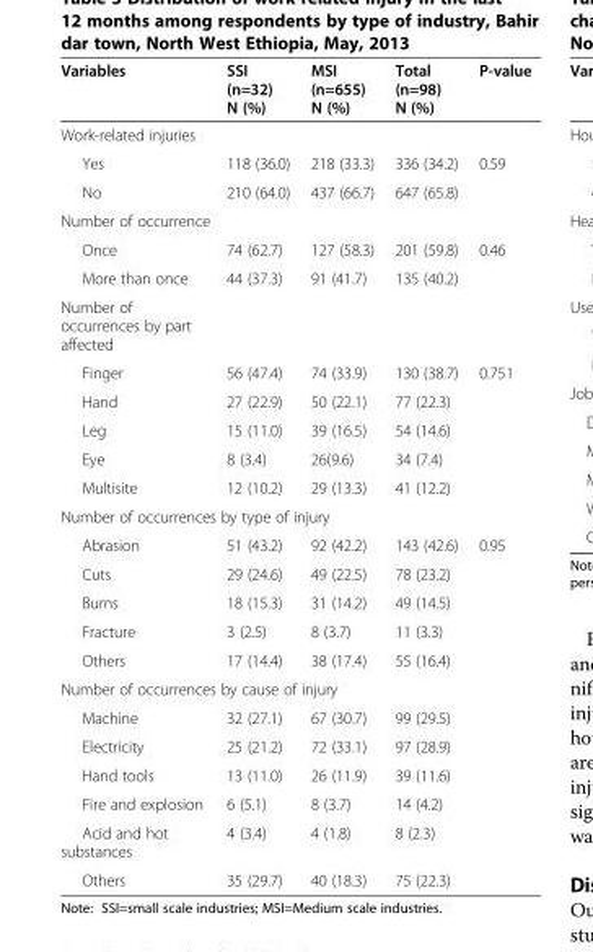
<table><thead><tr><td>Variables</td><td>SSI (n=32) N (%)</td><td>MSI (n=655) N (%)</td><td>Total (n=98) N (%)</td><td>P-value</td></tr></thead><tbody><tr><td colspan="5">Work-related injuries</td></tr><tr><td>Yes</td><td>118 (36.0)</td><td>218 (33.3)</td><td>336 (34.2)</td><td>0.59</td></tr><tr><td>No</td><td>210 (64.0)</td><td>437 (66.7)</td><td>647 (65.8)</td><td></td></tr><tr><td colspan="5">Number of occurrence</td></tr><tr><td>Once</td><td>74 (62.7)</td><td>127 (58.3)</td><td>201 (59.8)</td><td>0.46</td></tr><tr><td>More than once</td><td>44 (37.3)</td><td>91 (41.7)</td><td>135 (40.2)</td><td></td></tr><tr><td colspan="5">Number of occurrences by part affected</td></tr><tr><td>Finger</td><td>56 (47.4)</td><td>74 (33.9)</td><td>130 (38.7)</td><td>0.751</td></tr><tr><td>Hand</td><td>27 (22.9)</td><td>50 (22.1)</td><td>77 (22.3)</td><td></td></tr><tr><td>Leg</td><td>15 (11.0)</td><td>39 (16.5)</td><td>54 (14.6)</td><td></td></tr><tr><td>Eye</td><td>8 (3.4)</td><td>26(9.6)</td><td>34 (7.4)</td><td></td></tr><tr><td>Multisite</td><td>12 (10.2)</td><td>29 (13.3)</td><td>41 (12.2)</td><td></td></tr><tr><td colspan="5">Number of occurrences by type of injury</td></tr><tr><td>Abrasion</td><td>51 (43.2)</td><td>92 (42.2)</td><td>143 (42.6)</td><td>0.95</td></tr><tr><td>Cuts</td><td>29 (24.6)</td><td>49 (22.5)</td><td>78 (23.2)</td><td></td></tr><tr><td>Burns</td><td>18 (15.3)</td><td>31 (14.2)</td><td>49 (14.5)</td><td></td></tr><tr><td>Fracture</td><td>3 (2.5)</td><td>8 (3.7)</td><td>11 (3.3)</td><td></td></tr><tr><td>Others</td><td>17 (14.4)</td><td>38 (17.4)</td><td>55 (16.4)</td><td></td></tr><tr><td colspan="5">Number of occurrences by cause of injury</td></tr><tr><td>Machine</td><td>32 (27.1)</td><td>67 (30.7)</td><td>99 (29.5)</td><td></td></tr><tr><td>Electricity</td><td>25 (21.2)</td><td>72 (33.1)</td><td>97 (28.9)</td><td></td></tr><tr><td>Hand tools</td><td>13 (11.0)</td><td>26 (11.9)</td><td>39 (11.6)</td><td></td></tr><tr><td>Fire and explosion</td><td>6 (5.1)</td><td>8 (3.7)</td><td>14 (4.2)</td><td></td></tr><tr><td>Acid and hot substances</td><td>4 (3.4)</td><td>4 (1.8)</td><td>8 (2.3)</td><td></td></tr><tr><td>Others</td><td>35 (29.7)</td><td>40 (18.3)</td><td>75 (22.3)</td><td></td></tr></tbody></table>